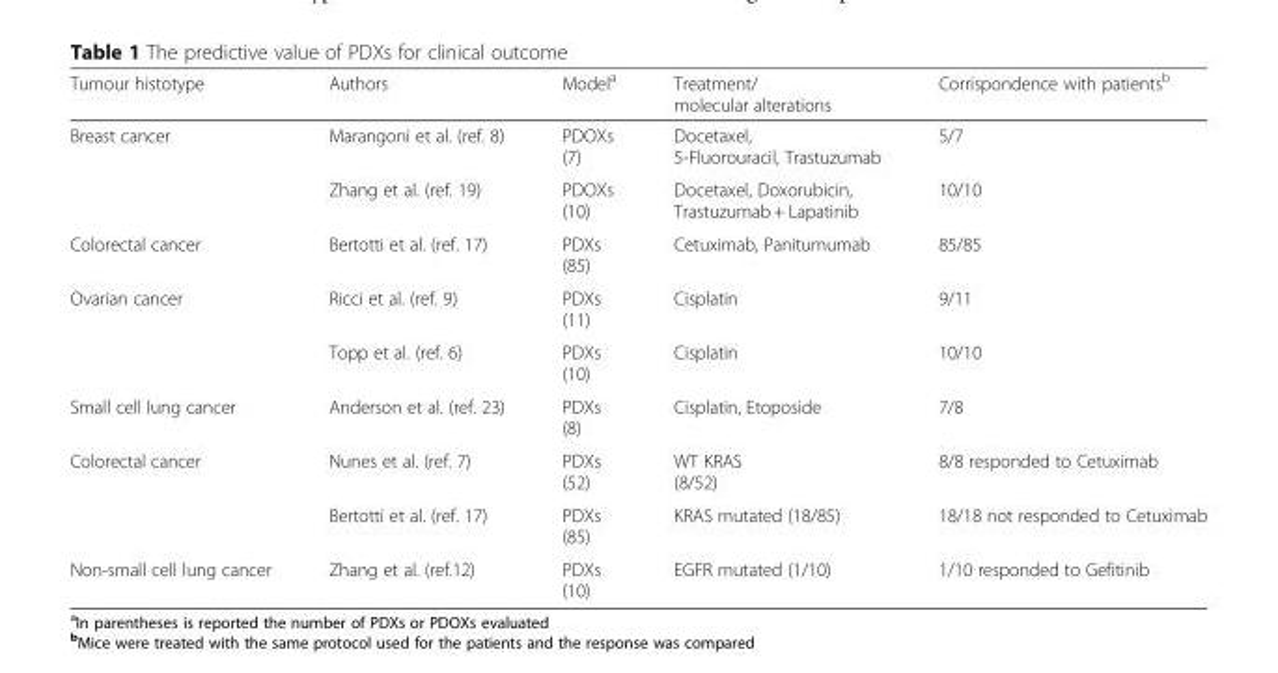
<table><thead><tr><td>Tumour histotype</td><td>Authors</td><td>Model<sup>a</sup></td><td>Treatment/ molecular alterations</td><td>Corrispondence with patients<sup>b</sup></td></tr></thead><tbody><tr><td rowspan="2">Breast cancer</td><td>Marangoni et al. (ref. 8)</td><td>PDOXs (7)</td><td>Docetaxel, 5-Fluorouracil, Trastuzumab</td><td>5/7</td></tr><tr><td>Zhang et al. (ref. 19)</td><td>PDOXs (10)</td><td>Docetaxel, Doxorubicin, Trastuzumab + Lapatinib</td><td>10/10</td></tr><tr><td>Colorectal cancer</td><td>Bertotti et al. (ref. 17)</td><td>PDXs (85)</td><td>Cetuximab, Panitumumab</td><td>85/85</td></tr><tr><td rowspan="2">Ovarian cancer</td><td>Ricci et al. (ref. 9)</td><td>PDXs (11)</td><td>Cisplatin</td><td>9/11</td></tr><tr><td>Topp et al. (ref. 6)</td><td>PDXs (10)</td><td>Cisplatin</td><td>10/10</td></tr><tr><td>Small cell lung cancer</td><td>Anderson et al. (ref. 23)</td><td>PDXs (8)</td><td>Cisplatin, Etoposide</td><td>7/8</td></tr><tr><td rowspan="2">Colorectal cancer</td><td>Nunes et al. (ref. 7)</td><td>PDXs (52)</td><td>WT KRAS (8/52)</td><td>8/8 responded to Cetuximab</td></tr><tr><td>Bertotti et al. (ref. 17)</td><td>PDXs (85)</td><td>KRAS mutated (18/85)</td><td>18/18 not responded to Cetuximab</td></tr><tr><td>Non-small cell lung cancer</td><td>Zhang et al. (ref.12)</td><td>PDXs (10)</td><td>EGFR mutated (1/10)</td><td>1/10 responded to Gefitinib</td></tr></tbody></table>